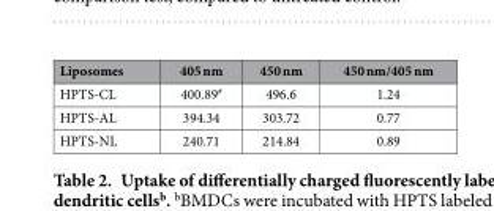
<table><thead><tr><td>Liposomes</td><td>405 nm</td><td>450 nm</td><td>450 nm/405 nm</td></tr></thead><tbody><tr><td>HPTS-CL</td><td>400.89#</td><td>496.6</td><td>1.24</td></tr><tr><td>HPTS-AL</td><td>394.34</td><td>303.72</td><td>0.77</td></tr><tr><td>HPTS-NL</td><td>240.71</td><td>214.84</td><td>0.89</td></tr></tbody></table>